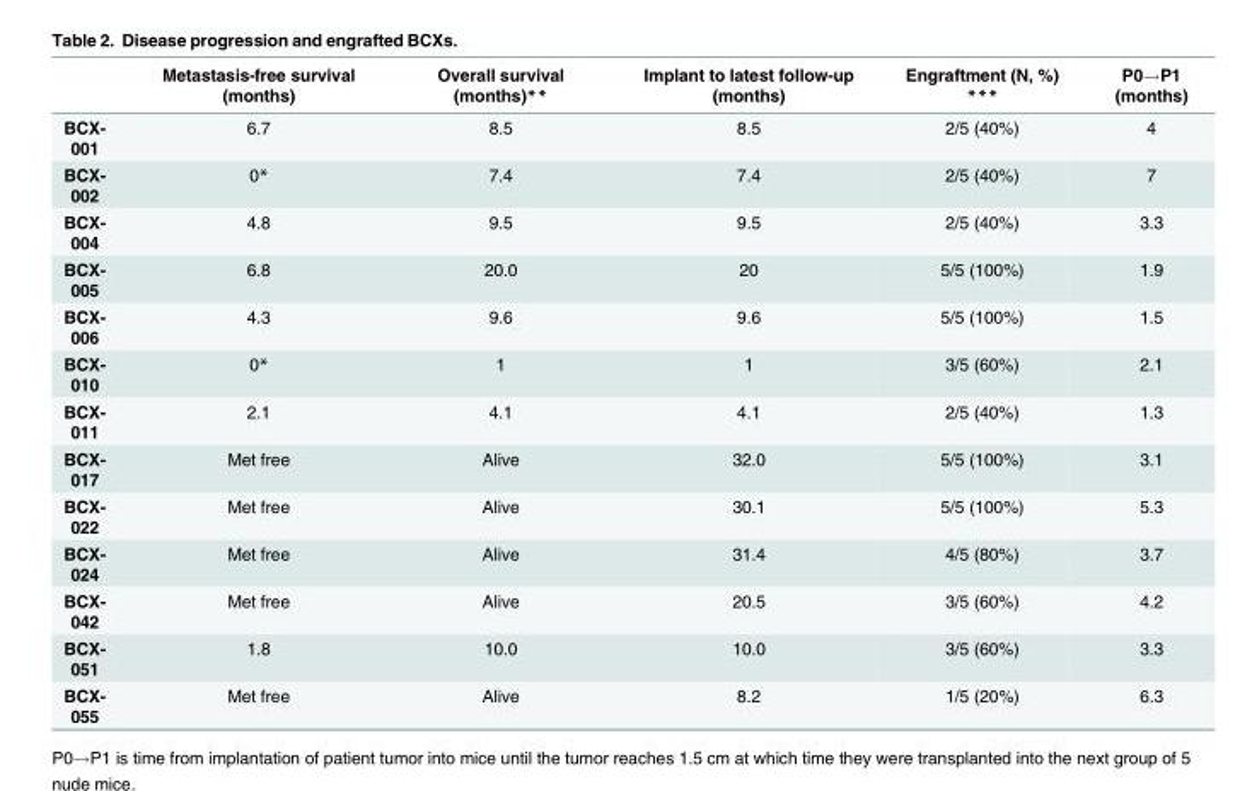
<table><thead><tr><td></td><td>Metastasis-free survival (months)</td><td>Overall survival (months)**</td><td>Implant to latest follow-up (months)</td><td>Engraftment (N, %) ***</td><td>P0→P1 (months)</td></tr></thead><tbody><tr><td>BCX- 001</td><td>6.7</td><td>8.5</td><td>8.5</td><td>2/5 (40%)</td><td>4</td></tr><tr><td>BCX- 002</td><td>0*</td><td>7.4</td><td>7.4</td><td>2/5 (40%)</td><td>7</td></tr><tr><td>BCX- 004</td><td>4.8</td><td>9.5</td><td>9.5</td><td>2/5 (40%)</td><td>3.3</td></tr><tr><td>BCX- 005</td><td>6.8</td><td>20.0</td><td>20</td><td>5/5 (100%)</td><td>1.9</td></tr><tr><td>BCX- 006</td><td>4.3</td><td>9.6</td><td>9.6</td><td>5/5 (100%)</td><td>1.5</td></tr><tr><td>BCX- 010</td><td>0*</td><td>1</td><td>1</td><td>3/5 (60%)</td><td>2.1</td></tr><tr><td>BCX- 011</td><td>2.1</td><td>4.1</td><td>4.1</td><td>2/5 (40%)</td><td>1.3</td></tr><tr><td>BCX- 017</td><td>Met free</td><td>Alive</td><td>32.0</td><td>5/5 (100%)</td><td>3.1</td></tr><tr><td>BCX- 022</td><td>Met free</td><td>Alive</td><td>30.1</td><td>5/5 (100%)</td><td>5.3</td></tr><tr><td>BCX- 024</td><td>Met free</td><td>Alive</td><td>31.4</td><td>4/5 (80%)</td><td>3.7</td></tr><tr><td>BCX- 042</td><td>Met free</td><td>Alive</td><td>20.5</td><td>3/5 (60%)</td><td>4.2</td></tr><tr><td>BCX- 051</td><td>1.8</td><td>10.0</td><td>10.0</td><td>3/5 (60%)</td><td>3.3</td></tr><tr><td>BCX- 055</td><td>Met free</td><td>Alive</td><td>8.2</td><td>1/5 (20%)</td><td>6.3</td></tr></tbody></table>